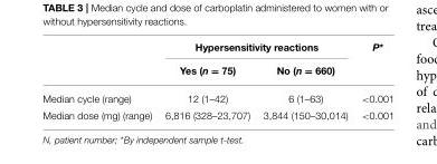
<table><thead><tr><td rowspan="2"></td><td colspan="2">Hypersensitivity reactions</td><td rowspan="2">P*</td></tr><tr><td>Yes (n = 75)</td><td>No (n = 660)</td></tr></thead><tbody><tr><td>Median cycle (range)</td><td>12 (1–42)</td><td>6 (1–63)</td><td>&lt;0.001</td></tr><tr><td>Median dose (mg) (range)</td><td>6,816 (328–23,707)</td><td>3,844 (150–30,014)</td><td>&lt;0.001</td></tr></tbody></table>